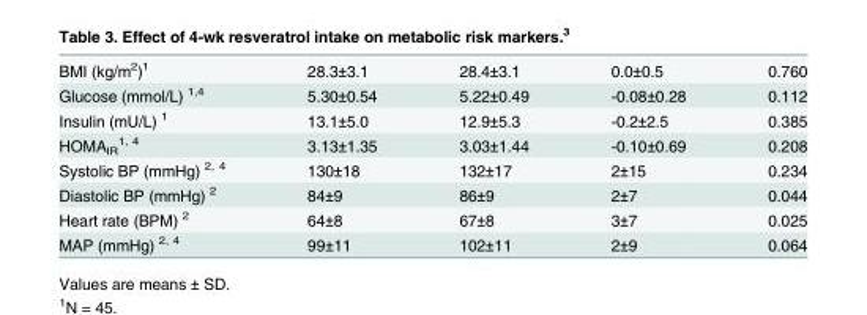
<table><tbody><tr><td>BMI (kg/m<sup>2</sup>)<sup>1</sup></td><td>28.3±3.1</td><td>28.4±3.1</td><td>0.0±0.5</td><td>0.760</td></tr><tr><td>Glucose (mmol/L) <sup>1,4</sup></td><td>5.30±0.54</td><td>5.22±0.49</td><td>-0.08±0.28</td><td>0.112</td></tr><tr><td>Insulin (mU/L) <sup>1</sup></td><td>13.1±5.0</td><td>12.9±5.3</td><td>-0.2±2.5</td><td>0.385</td></tr><tr><td>HOMA<sub>IR</sub> <sup>1, 4</sup></td><td>3.13±1.35</td><td>3.03±1.44</td><td>-0.10±0.69</td><td>0.208</td></tr><tr><td>Systolic BP (mmHg) <sup>2, 4</sup></td><td>130±18</td><td>132±17</td><td>2±15</td><td>0.234</td></tr><tr><td>Diastolic BP (mmHg) <sup>2</sup></td><td>84±9</td><td>86±9</td><td>2±7</td><td>0.044</td></tr><tr><td>Heart rate (BPM) <sup>2</sup></td><td>64±8</td><td>67±8</td><td>3±7</td><td>0.025</td></tr><tr><td>MAP (mmHg) <sup>2, 4</sup></td><td>99±11</td><td>102±11</td><td>2±9</td><td>0.064</td></tr></tbody></table>